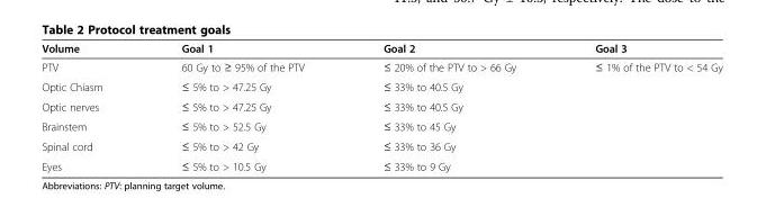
<table><thead><tr><td>Volume</td><td>Goal 1</td><td>Goal 2</td><td>Goal 3</td></tr></thead><tbody><tr><td>PTV</td><td>60 Gy to ≥ 95% of the PTV</td><td>≤ 20% of the PTV to &gt; 66 Gy</td><td>≤ 1% of the PTV to &lt; 54 Gy</td></tr><tr><td>Optic Chiasm</td><td>≤ 5% to &gt; 47.25 Gy</td><td>≤ 33% to 40.5 Gy</td><td></td></tr><tr><td>Optic nerves</td><td>≤ 5% to &gt; 47.25 Gy</td><td>≤ 33% to 40.5 Gy</td><td></td></tr><tr><td>Brainstem</td><td>≤ 5% to &gt; 52.5 Gy</td><td>≤ 33% to 45 Gy</td><td></td></tr><tr><td>Spinal cord</td><td>≤ 5% to &gt; 42 Gy</td><td>≤ 33% to 36 Gy</td><td></td></tr><tr><td>Eyes</td><td>≤ 5% to &gt; 10.5 Gy</td><td>≤ 33% to 9 Gy</td><td></td></tr></tbody></table>